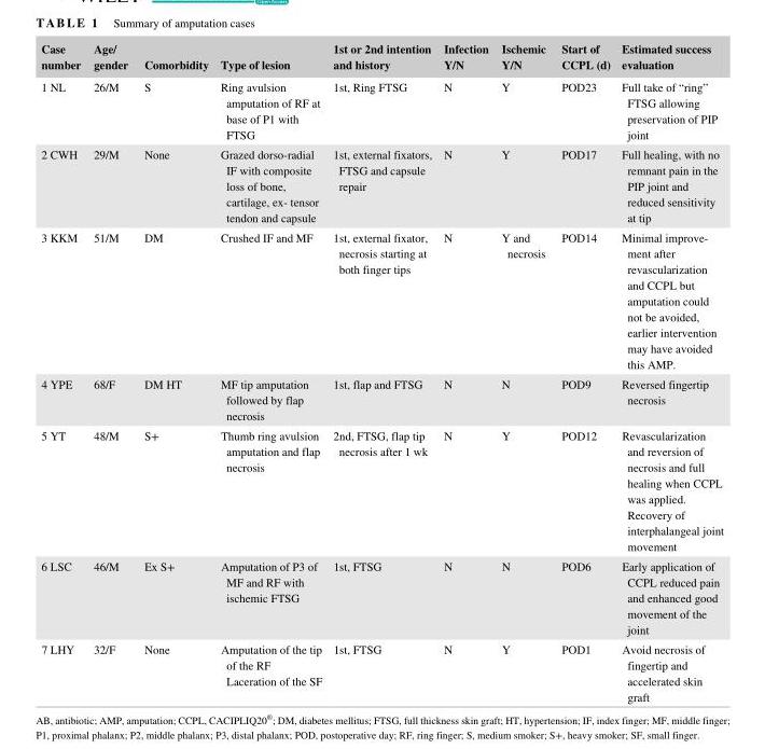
<table><thead><tr><td>Case number</td><td>Age/ gender</td><td>Comorbidity</td><td>Type of lesion</td><td>1st or 2nd intention and history</td><td>Infection Y/N</td><td>Ischemic Y/N</td><td>Start of CCPL (d)</td><td>Estimated success evaluation</td></tr></thead><tbody><tr><td>1 NL</td><td>26/M</td><td>S</td><td>Ring avulsion amputation of RF at base of P1 with FTSG</td><td>1st, Ring FTSG</td><td>N</td><td>Y</td><td>POD23</td><td>Full take of “ring” FTSG allowing preservation of PIP joint</td></tr><tr><td>2 CWH</td><td>29/M</td><td>None</td><td>Grazed dorso- radial IF with composite loss of bone, cartilage, ex- tensor tendon and capsule</td><td>1st, external fixators, FTSG and capsule repair</td><td>N</td><td>Y</td><td>POD17</td><td>Full healing, with no remnant pain in the PIP joint and reduced sensitivity at tip</td></tr><tr><td>3 KKM</td><td>51/M</td><td>DM</td><td>Crushed IF and MF</td><td>1st, external fixator, necrosis starting at both finger tips</td><td>N</td><td>Y and necrosis</td><td>POD14</td><td>Minimal improve- ment after revascularization and CCPL but amputation could not be avoided, earlier intervention may have avoided this AMP.</td></tr><tr><td>4 YPE</td><td>68/F</td><td>DM HT</td><td>MF tip amputation followed by flap necrosis</td><td>1st, flap and FTSG</td><td>N</td><td>N</td><td>POD9</td><td>Reversed fingertip necrosis</td></tr><tr><td>5 YT</td><td>48/M</td><td>S+</td><td>Thumb ring avulsion amputation and flap necrosis</td><td>2nd, FTSG, flap tip necrosis after 1 wk</td><td>N</td><td>Y</td><td>POD12</td><td>Revascularization and reversion of necrosis and full healing when CCPL was applied. Recovery of interphalangeal joint movement</td></tr><tr><td>6 LSC</td><td>46/M</td><td>Ex S+</td><td>Amputation of P3 of MF and RF with ischemic FTSG</td><td>1st, FTSG</td><td>N</td><td>N</td><td>POD6</td><td>Early application of CCPL reduced pain and enhanced good movement of the joint</td></tr><tr><td>7 LHY</td><td>32/F</td><td>None</td><td>Amputation of the tip of the RF Laceration of the SF</td><td>1st, FTSG</td><td>N</td><td>Y</td><td>POD1</td><td>Avoid necrosis of fingertip and accelerated skin graft</td></tr></tbody></table>